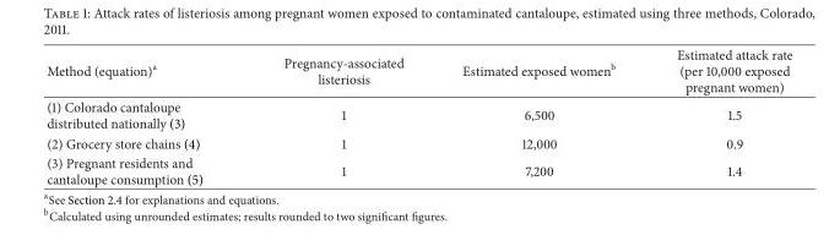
<table><thead><tr><td>Method (equation)<sup>a</sup></td><td>Pregnancy-associated listeriosis</td><td>Estimated exposed women<sup>b</sup></td><td>Estimated attack rate (per 10,000 exposed pregnant women)</td></tr></thead><tbody><tr><td>(1) Colorado cantaloupe distributed nationally (3)</td><td>1</td><td>6,500</td><td>1.5</td></tr><tr><td>(2) Grocery store chains (4)</td><td>1</td><td>12,000</td><td>0.9</td></tr><tr><td>(3) Pregnant residents and cantaloupe consumption (5)</td><td>1</td><td>7,200</td><td>1.4</td></tr></tbody></table>